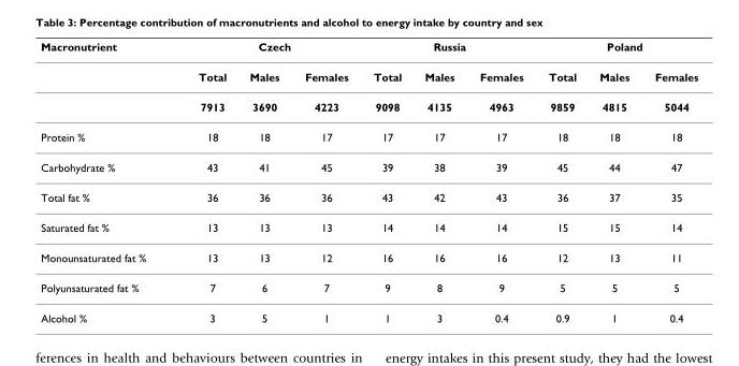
<table><thead><tr><td rowspan="2">Macronutrient</td><td colspan="3">Czech</td><td colspan="3">Russia</td><td colspan="3">Poland</td></tr><tr><td>Total</td><td>Males</td><td>Females</td><td>Total</td><td>Males</td><td>Females</td><td>Total</td><td>Males</td><td>Females</td></tr></thead><tbody><tr><td></td><td>7913</td><td>3690</td><td>4223</td><td>9098</td><td>4135</td><td>4963</td><td>9859</td><td>4815</td><td>5044</td></tr><tr><td>Protein %</td><td>18</td><td>18</td><td>17</td><td>17</td><td>17</td><td>17</td><td>18</td><td>18</td><td>18</td></tr><tr><td>Carbohydrate %</td><td>43</td><td>41</td><td>45</td><td>39</td><td>38</td><td>39</td><td>45</td><td>44</td><td>47</td></tr><tr><td>Total fat %</td><td>36</td><td>36</td><td>36</td><td>43</td><td>42</td><td>43</td><td>36</td><td>37</td><td>35</td></tr><tr><td>Saturated fat %</td><td>13</td><td>13</td><td>13</td><td>14</td><td>14</td><td>14</td><td>15</td><td>15</td><td>14</td></tr><tr><td>Monounsaturated fat %</td><td>13</td><td>13</td><td>12</td><td>16</td><td>16</td><td>16</td><td>12</td><td>13</td><td>11</td></tr><tr><td>Polyunsaturated fat %</td><td>7</td><td>6</td><td>7</td><td>9</td><td>8</td><td>9</td><td>5</td><td>5</td><td>5</td></tr><tr><td>Alcohol %</td><td>3</td><td>5</td><td>1</td><td>1</td><td>3</td><td>0.4</td><td>0.9</td><td>1</td><td>0.4</td></tr></tbody></table>